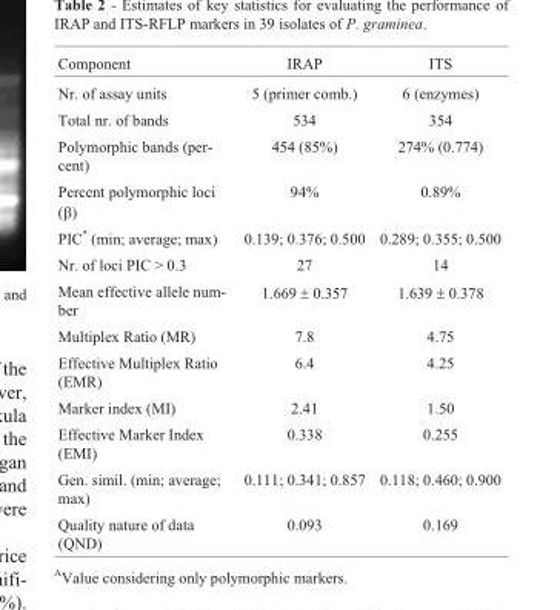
<table><thead><tr><td>Component</td><td>IRAP</td><td>ITS</td></tr></thead><tbody><tr><td>Nr. of assay units</td><td>5 (primer comb.)</td><td>6 (enzymes)</td></tr><tr><td>Total nr. of bands</td><td>534</td><td>354</td></tr><tr><td>Polymorphic bands (per- cent)</td><td>454 (85%)</td><td>274% (0.774)</td></tr><tr><td>Percent polymorphic loci (β)</td><td>94%</td><td>0.89%</td></tr><tr><td>PIC* (min; average; max)</td><td>0.139; 0.376; 0.500</td><td>0.289; 0.355; 0.500</td></tr><tr><td>Nr. of loci PIC &gt; 0.3</td><td>27</td><td>14</td></tr><tr><td>Mean effective allele num- ber</td><td>1.669 ± 0.357</td><td>1.639 ± 0.378</td></tr><tr><td>Multiplex Ratio (MR)</td><td>7.8</td><td>4.75</td></tr><tr><td>Effective Multiplex Ratio (EMR)</td><td>6.4</td><td>4.25</td></tr><tr><td>Marker index (MI)</td><td>2.41</td><td>1.50</td></tr><tr><td>Effective Marker Index (EMI)</td><td>0.338</td><td>0.255</td></tr><tr><td>Gen. simil. (min; average; max)</td><td>0.111; 0.341; 0.857</td><td>0.118; 0.460; 0.900</td></tr><tr><td>Quality nature of data (QND)</td><td>0.093</td><td>0.169</td></tr></tbody></table>